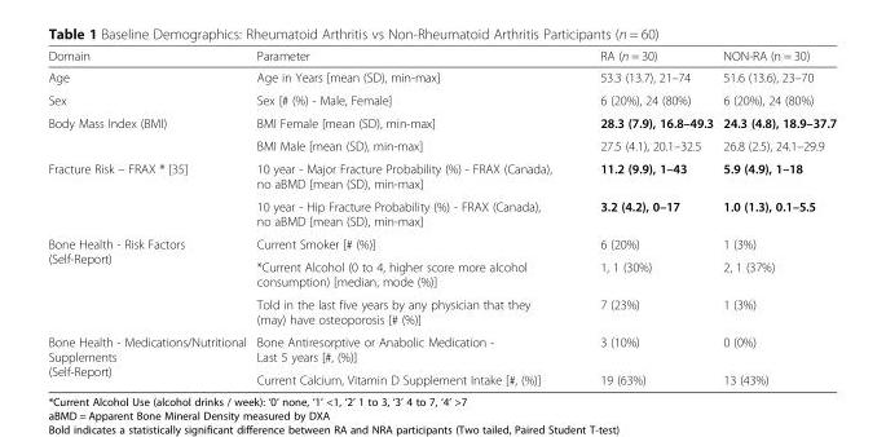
<table><thead><tr><td>Domain</td><td>Parameter</td><td>RA (n = 30)</td><td>NON-RA (n = 30)</td></tr></thead><tbody><tr><td>Age</td><td>Age in Years [mean (SD), min-max]</td><td>53.3 (13.7), 21–74</td><td>51.6 (13.6), 23–70</td></tr><tr><td>Sex</td><td>Sex [# (%) - Male, Female]</td><td>6 (20%), 24 (80%)</td><td>6 (20%), 24 (80%)</td></tr><tr><td rowspan="2">Body Mass Index (BMI)</td><td>BMI Female [mean (SD), min-max]</td><td>28.3 (7.9), 16.8–49.3</td><td>24.3 (4.8), 18.9–37.7</td></tr><tr><td>BMI Male [mean (SD), min-max]</td><td>27.5 (4.1), 20.1–32.5</td><td>26.8 (2.5), 24.1–29.9</td></tr><tr><td rowspan="2">Fracture Risk – FRAX ® [35]</td><td>10 year - Major Fracture Probability (%) - FRAX (Canada), no aBMD [mean (SD), min-max]</td><td>11.2 (9.9), 1–43</td><td>5.9 (4.9), 1–18</td></tr><tr><td>10 year - Hip Fracture Probability (%) - FRAX (Canada), no aBMD [mean (SD), min-max]</td><td>3.2 (4.2), 0–17</td><td>1.0 (1.3), 0.1–5.5</td></tr><tr><td rowspan="3">Bone Health - Risk Factors (Self-Report)</td><td>Current Smoker [# (%)]</td><td>6 (20%)</td><td>1 (3%)</td></tr><tr><td>*Current Alcohol (0 to 4, higher score more alcohol consumption) [median, mode (%)]</td><td>1, 1 (30%)</td><td>2, 1 (37%)</td></tr><tr><td>Told in the last five years by any physician that they (may) have osteoporosis [# (%)]</td><td>7 (23%)</td><td>1 (3%)</td></tr><tr><td rowspan="2">Bone Health - Medications/Nutritional Supplements (Self-Report)</td><td>Bone Antiresorptive or Anabolic Medication - Last 5 years [#, (%)]</td><td>3 (10%)</td><td>0 (0%)</td></tr><tr><td>Current Calcium, Vitamin D Supplement Intake [#, (%)]</td><td>19 (63%)</td><td>13 (43%)</td></tr></tbody></table>